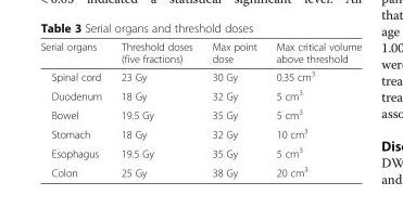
<table><thead><tr><td>Serial organs</td><td>Threshold doses (five fractions)</td><td>Max point dose</td><td>Max critical volume above threshold</td></tr></thead><tbody><tr><td>Spinal cord</td><td>23 Gy</td><td>30 Gy</td><td>0.35 cm3</td></tr><tr><td>Duodenum</td><td>18 Gy</td><td>32 Gy</td><td>5 cm3</td></tr><tr><td>Bowel</td><td>19.5 Gy</td><td>35 Gy</td><td>5 cm3</td></tr><tr><td>Stomach</td><td>18 Gy</td><td>32 Gy</td><td>10 cm3</td></tr><tr><td>Esophagus</td><td>19.5 Gy</td><td>35 Gy</td><td>5 cm3</td></tr><tr><td>Colon</td><td>25 Gy</td><td>38 Gy</td><td>20 cm3</td></tr></tbody></table>